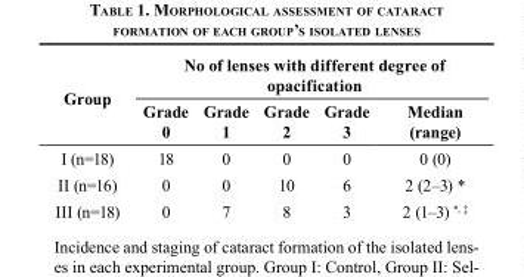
<table><thead><tr><td rowspan="2">Group</td><td colspan="5">No of lenses with different degree of opacification</td></tr><tr><td>Grade 0</td><td>Grade 1</td><td>Grade 2</td><td>Grade 3</td><td>Median (range)</td></tr></thead><tbody><tr><td>I (n=18)</td><td>18</td><td>0</td><td>0</td><td>0</td><td>0 (0)</td></tr><tr><td>II (n=16)</td><td>0</td><td>0</td><td>10</td><td>6</td><td>2 (2–3) *</td></tr><tr><td>III (n=18)</td><td>0</td><td>7</td><td>8</td><td>3</td><td>2 (1–3) <sup>*, ‡</sup></td></tr></tbody></table>